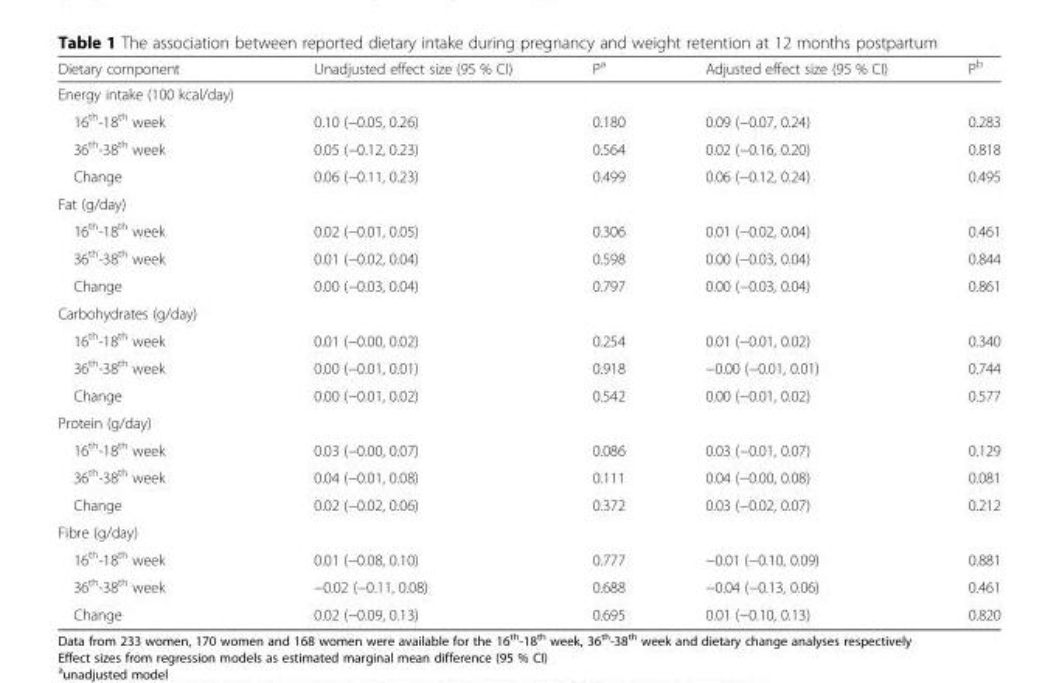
<table><thead><tr><td>Dietary component</td><td>Unadjusted effect size (95 % CI)</td><td>P<sup>a</sup></td><td>Adjusted effect size (95 % CI)</td><td>P<sup>b</sup></td></tr></thead><tbody><tr><td colspan="5">Energy intake (100 kcal/day)</td></tr><tr><td>16<sup>th</sup>-18<sup>th</sup> week</td><td>0.10 (−0.05, 0.26)</td><td>0.180</td><td>0.09 (−0.07, 0.24)</td><td>0.283</td></tr><tr><td>36<sup>th</sup>-38<sup>th</sup> week</td><td>0.05 (−0.12, 0.23)</td><td>0.564</td><td>0.02 (−0.16, 0.20)</td><td>0.818</td></tr><tr><td>Change</td><td>0.06 (−0.11, 0.23)</td><td>0.499</td><td>0.06 (−0.12, 0.24)</td><td>0.495</td></tr><tr><td colspan="5">Fat (g/day)</td></tr><tr><td>16<sup>th</sup>-18<sup>th</sup> week</td><td>0.02 (−0.01, 0.05)</td><td>0.306</td><td>0.01 (−0.02, 0.04)</td><td>0.461</td></tr><tr><td>36<sup>th</sup>-38<sup>th</sup> week</td><td>0.01 (−0.02, 0.04)</td><td>0.598</td><td>0.00 (−0.03, 0.04)</td><td>0.844</td></tr><tr><td>Change</td><td>0.00 (−0.03, 0.04)</td><td>0.797</td><td>0.00 (−0.03, 0.04)</td><td>0.861</td></tr><tr><td colspan="5">Carbohydrates (g/day)</td></tr><tr><td>16<sup>th</sup>-18<sup>th</sup> week</td><td>0.01 (−0.00, 0.02)</td><td>0.254</td><td>0.01 (−0.01, 0.02)</td><td>0.340</td></tr><tr><td>36<sup>th</sup>-38<sup>th</sup> week</td><td>0.00 (−0.01, 0.01)</td><td>0.918</td><td>−0.00 (−0.01, 0.01)</td><td>0.744</td></tr><tr><td>Change</td><td>0.00 (−0.01, 0.02)</td><td>0.542</td><td>0.00 (−0.01, 0.02)</td><td>0.577</td></tr><tr><td colspan="5">Protein (g/day)</td></tr><tr><td>16<sup>th</sup>-18<sup>th</sup> week</td><td>0.03 (−0.00, 0.07)</td><td>0.086</td><td>0.03 (−0.01, 0.07)</td><td>0.129</td></tr><tr><td>36<sup>th</sup>-38<sup>th</sup> week</td><td>0.04 (−0.01, 0.08)</td><td>0.111</td><td>0.04 (−0.00, 0.08)</td><td>0.081</td></tr><tr><td>Change</td><td>0.02 (−0.02, 0.06)</td><td>0.372</td><td>0.03 (−0.02, 0.07)</td><td>0.212</td></tr><tr><td colspan="5">Fibre (g/day)</td></tr><tr><td>16<sup>th</sup>-18<sup>th</sup> week</td><td>0.01 (−0.08, 0.10)</td><td>0.777</td><td>−0.01 (−0.10, 0.09)</td><td>0.881</td></tr><tr><td>36<sup>th</sup>-38<sup>th</sup> week</td><td>−0.02 (−0.11, 0.08)</td><td>0.688</td><td>−0.04 (−0.13, 0.06)</td><td>0.461</td></tr><tr><td>Change</td><td>0.02 (−0.09, 0.13)</td><td>0.695</td><td>0.01 (−0.10, 0.13)</td><td>0.820</td></tr></tbody></table>